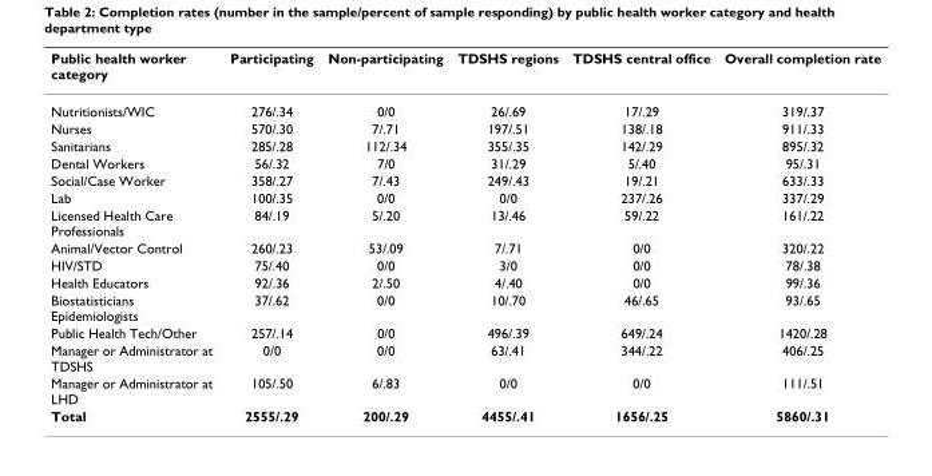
<table><thead><tr><td>Public health worker category</td><td>Participating</td><td>Non-participating</td><td>TDSHS regions</td><td>TDSHS central office</td><td>Overall completion rate</td></tr></thead><tbody><tr><td>Nutritionists/WIC</td><td>276/.34</td><td>0/0</td><td>26/.69</td><td>17/.29</td><td>319/.37</td></tr><tr><td>Nurses</td><td>570/.30</td><td>7/.71</td><td>197/.51</td><td>138/.18</td><td>911/.33</td></tr><tr><td>Sanitarians</td><td>285/.28</td><td>112/.34</td><td>355/.35</td><td>142/.29</td><td>895/.32</td></tr><tr><td>Dental Workers</td><td>56/.32</td><td>7/0</td><td>31/.29</td><td>5/.40</td><td>95/.31</td></tr><tr><td>Social/Case Worker</td><td>358/.27</td><td>7/.43</td><td>249/.43</td><td>19/.21</td><td>633/.33</td></tr><tr><td>Lab</td><td>100/.35</td><td>0/0</td><td>0/0</td><td>237/.26</td><td>337/.29</td></tr><tr><td>Licensed Health Care Professionals</td><td>84/.19</td><td>5/.20</td><td>13/.46</td><td>59/.22</td><td>161/.22</td></tr><tr><td>Animal/Vector Control</td><td>260/.23</td><td>53/.09</td><td>7/.71</td><td>0/0</td><td>320/.22</td></tr><tr><td>HIV/STD</td><td>75/.40</td><td>0/0</td><td>3/0</td><td>0/0</td><td>78/.38</td></tr><tr><td>Health Educators</td><td>92/.36</td><td>2/.50</td><td>4/.40</td><td>0/0</td><td>99/.36</td></tr><tr><td>Biostatisticians Epidemiologists</td><td>37/.62</td><td>0/0</td><td>10/.70</td><td>46/.65</td><td>93/.65</td></tr><tr><td>Public Health Tech/Other</td><td>257/.14</td><td>0/0</td><td>496/.39</td><td>649/.24</td><td>1420/.28</td></tr><tr><td>Manager or Administrator at TDSHS</td><td>0/0</td><td>0/0</td><td>63/.41</td><td>344/.22</td><td>406/.25</td></tr><tr><td>Manager or Administrator at LHD</td><td>105/.50</td><td>6/.83</td><td>0/0</td><td>0/0</td><td>111/.51</td></tr><tr><td>Total</td><td>2555/.29</td><td>200/.29</td><td>4455/.41</td><td>1656/.25</td><td>5860/.31</td></tr></tbody></table>